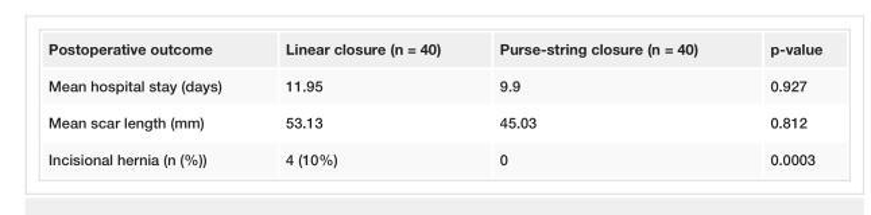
<table><tbody><tr><td>Postoperative outcome</td><td>Linear closure (n = 40)</td><td>Purse-string closure (n = 40)</td><td>p-value</td></tr><tr><td>Mean hospital stay (days)</td><td>11.95</td><td>9.9</td><td>0.927</td></tr><tr><td>Mean scar length (mm)</td><td>53.13</td><td>45.03</td><td>0.812</td></tr><tr><td>Incisional hernia (n (%))</td><td>4 (10%)</td><td>0</td><td>0.0003</td></tr></tbody></table>